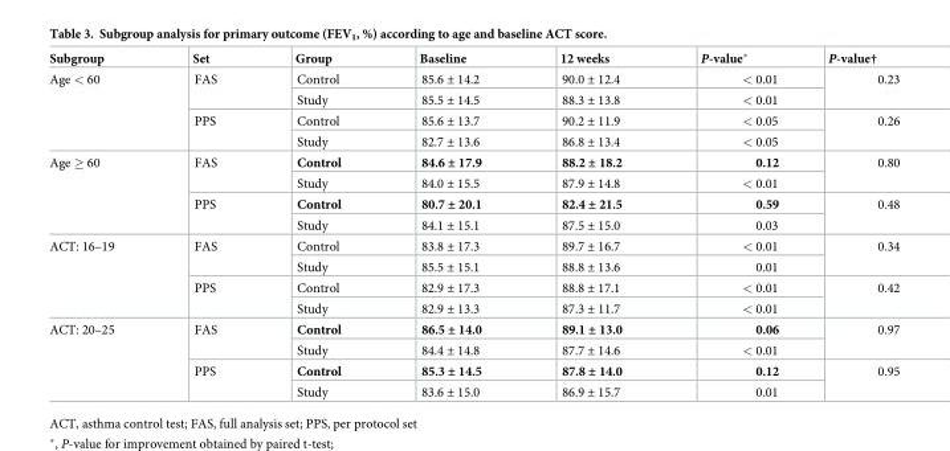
<table><thead><tr><td>Subgroup</td><td>Set</td><td>Group</td><td>Baseline</td><td>12 weeks</td><td>P-value*</td><td>P-value†</td></tr></thead><tbody><tr><td rowspan="4">Age &lt; 60</td><td rowspan="2">FAS</td><td>Control</td><td>85.6 ± 14.2</td><td>90.0 ± 12.4</td><td>&lt; 0.01</td><td rowspan="2">0.23</td></tr><tr><td>Study</td><td>85.5 ± 14.5</td><td>88.3 ± 13.8</td><td>&lt; 0.01</td></tr><tr><td rowspan="2">PPS</td><td>Control</td><td>85.6 ± 13.7</td><td>90.2 ± 11.9</td><td>&lt; 0.05</td><td rowspan="2">0.26</td></tr><tr><td>Study</td><td>82.7 ± 13.6</td><td>86.8 ± 13.4</td><td>&lt; 0.05</td></tr><tr><td rowspan="4">Age ≥ 60</td><td rowspan="2">FAS</td><td>Control</td><td>84.6 ± 17.9</td><td>88.2 ± 18.2</td><td>0.12</td><td rowspan="2">0.80</td></tr><tr><td>Study</td><td>84.0 ± 15.5</td><td>87.9 ± 14.8</td><td>&lt; 0.01</td></tr><tr><td rowspan="2">PPS</td><td>Control</td><td>80.7 ± 20.1</td><td>82.4 ± 21.5</td><td>0.59</td><td rowspan="2">0.48</td></tr><tr><td>Study</td><td>84.1 ± 15.1</td><td>87.5 ± 15.0</td><td>0.03</td></tr><tr><td rowspan="4">ACT: 16–19</td><td rowspan="2">FAS</td><td>Control</td><td>83.8 ± 17.3</td><td>89.7 ± 16.7</td><td>&lt; 0.01</td><td rowspan="2">0.34</td></tr><tr><td>Study</td><td>85.5 ± 15.1</td><td>88.8 ± 13.6</td><td>0.01</td></tr><tr><td rowspan="2">PPS</td><td>Control</td><td>82.9 ± 17.3</td><td>88.8 ± 17.1</td><td>&lt; 0.01</td><td rowspan="2">0.42</td></tr><tr><td>Study</td><td>82.9 ± 13.3</td><td>87.3 ± 11.7</td><td>&lt; 0.01</td></tr><tr><td rowspan="4">ACT: 20–25</td><td rowspan="2">FAS</td><td>Control</td><td>86.5 ± 14.0</td><td>89.1 ± 13.0</td><td>0.06</td><td rowspan="2">0.97</td></tr><tr><td>Study</td><td>84.4 ± 14.8</td><td>87.7 ± 14.6</td><td>&lt; 0.01</td></tr><tr><td rowspan="2">PPS</td><td>Control</td><td>85.3 ± 14.5</td><td>87.8 ± 14.0</td><td>0.12</td><td rowspan="2">0.95</td></tr><tr><td>Study</td><td>83.6 ± 15.0</td><td>86.9 ± 15.7</td><td>0.01</td></tr></tbody></table>